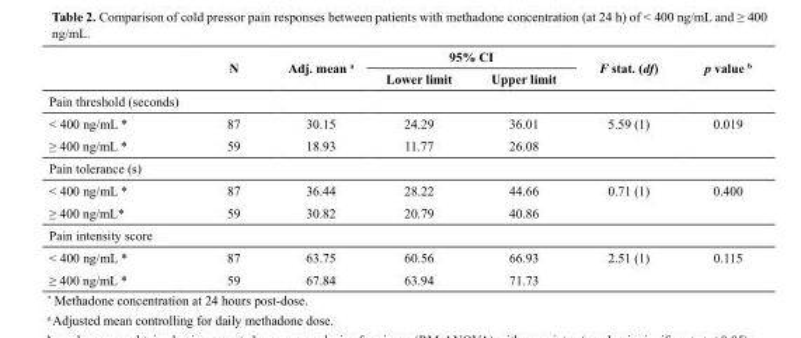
<table><thead><tr><td rowspan="2"></td><td rowspan="2">N</td><td rowspan="2">Adj. mean a</td><td colspan="2">95% CI</td><td rowspan="2">F stat. (df)</td><td rowspan="2">p value b</td></tr><tr><td>Lower limit</td><td>Upper limit</td></tr></thead><tbody><tr><td colspan="7">Pain threshold (seconds)</td></tr><tr><td>&lt; 400 ng/mL *</td><td>87</td><td>30.15</td><td>24.29</td><td>36.01</td><td>5.59 (1)</td><td>0.019</td></tr><tr><td>≥ 400 ng/mL *</td><td>59</td><td>18.93</td><td>11.77</td><td>26.08</td><td></td><td></td></tr><tr><td colspan="7">Pain tolerance (s)</td></tr><tr><td>&lt; 400 ng/mL *</td><td>87</td><td>36.44</td><td>28.22</td><td>44.66</td><td>0.71 (1)</td><td>0.400</td></tr><tr><td>≥ 400 ng/mL*</td><td>59</td><td>30.82</td><td>20.79</td><td>40.86</td><td></td><td></td></tr><tr><td colspan="7">Pain intensity score</td></tr><tr><td>&lt; 400 ng/mL *</td><td>87</td><td>63.75</td><td>60.56</td><td>66.93</td><td>2.51 (1)</td><td>0.115</td></tr><tr><td>≥ 400 ng/mL *</td><td>59</td><td>67.84</td><td>63.94</td><td>71.73</td><td></td><td></td></tr></tbody></table>